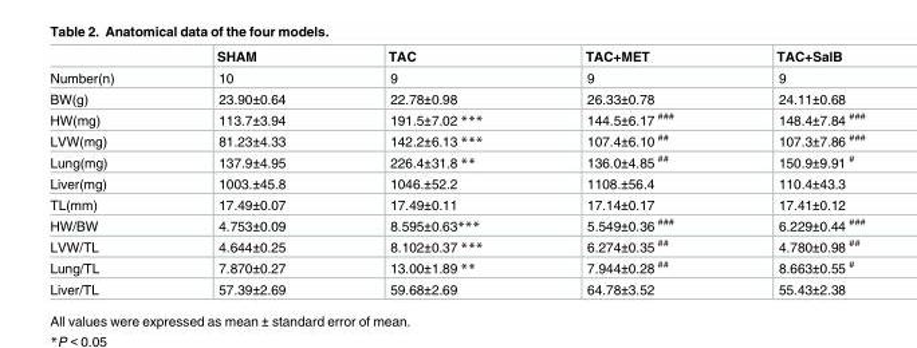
<table><thead><tr><td></td><td>SHAM</td><td>TAC</td><td>TAC+MET</td><td>TAC+SalB</td></tr></thead><tbody><tr><td>Number(n)</td><td>10</td><td>9</td><td>9</td><td>9</td></tr><tr><td>BW(g)</td><td>23.90±0.64</td><td>22.78±0.98</td><td>26.33±0.78</td><td>24.11±0.68</td></tr><tr><td>HW(mg)</td><td>113.7±3.94</td><td>191.5±7.02 ***</td><td>144.5±6.17 <sup>###</sup></td><td>148.4±7.84 <sup>###</sup></td></tr><tr><td>LVW(mg)</td><td>81.23±4.33</td><td>142.2±6.13 ***</td><td>107.4±6.10 <sup>##</sup></td><td>107.3±7.86 <sup>###</sup></td></tr><tr><td>Lung(mg)</td><td>137.9±4.95</td><td>226.4±31.8 **</td><td>136.0±4.85 <sup>##</sup></td><td>150.9±9.91 <sup>#</sup></td></tr><tr><td>Liver(mg)</td><td>1003.±45.8</td><td>1046.±52.2</td><td>1108.±56.4</td><td>110.4±43.3</td></tr><tr><td>TL(mm)</td><td>17.49±0.07</td><td>17.49±0.11</td><td>17.14±0.17</td><td>17.41±0.12</td></tr><tr><td>HW/BW</td><td>4.753±0.09</td><td>8.595±0.63***</td><td>5.549±0.36 <sup>###</sup></td><td>6.229±0.44 <sup>###</sup></td></tr><tr><td>LVW/TL</td><td>4.644±0.25</td><td>8.102±0.37 ***</td><td>6.274±0.35 <sup>##</sup></td><td>4.780±0.98 <sup>##</sup></td></tr><tr><td>Lung/TL</td><td>7.870±0.27</td><td>13.00±1.89 **</td><td>7.944±0.28 <sup>##</sup></td><td>8.663±0.55 <sup>#</sup></td></tr><tr><td>Liver/TL</td><td>57.39±2.69</td><td>59.68±2.69</td><td>64.78±3.52</td><td>55.43±2.38</td></tr></tbody></table>